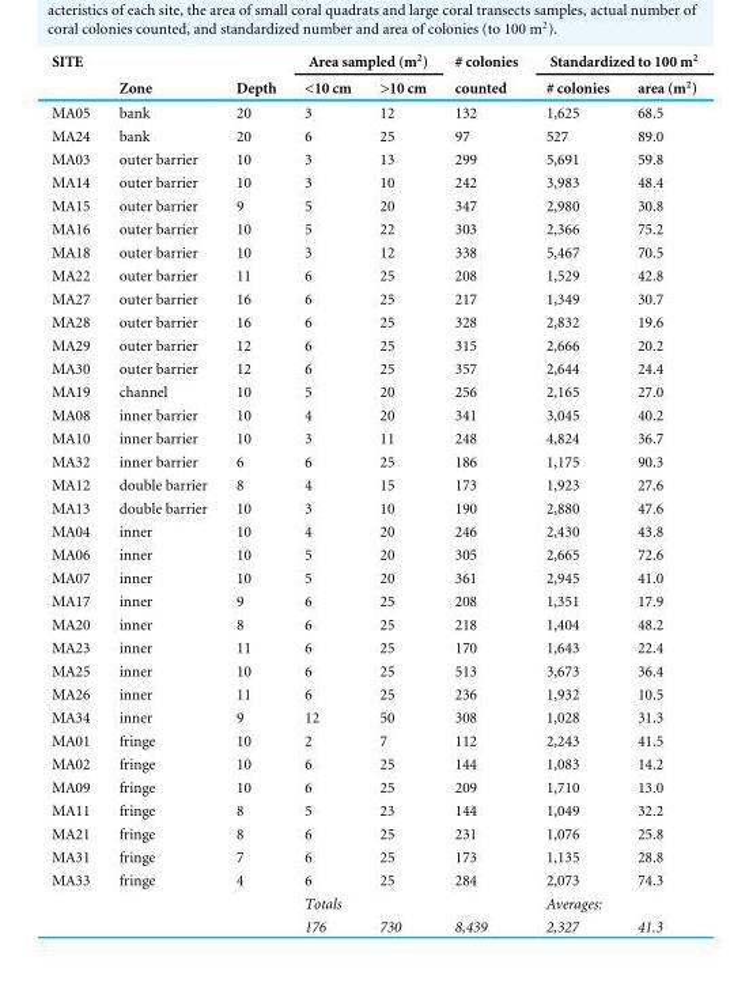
<table><thead><tr><td rowspan="2">SITE</td><td rowspan="2">Zone</td><td rowspan="2">Depth</td><td colspan="2">Area sampled (m<sup>2</sup>)</td><td rowspan="2"># colonies counted</td><td colspan="2">Standardized to 100 m<sup>2</sup></td></tr><tr><td>&lt;10 cm</td><td>&gt;10 cm</td><td># colonies</td><td>area (m<sup>2</sup>)</td></tr></thead><tbody><tr><td>MA05</td><td>bank</td><td>20</td><td>3</td><td>12</td><td>132</td><td>1,625</td><td>68.5</td></tr><tr><td>MA24</td><td>bank</td><td>20</td><td>6</td><td>25</td><td>97</td><td>527</td><td>89.0</td></tr><tr><td>MA03</td><td>outer barrier</td><td>10</td><td>3</td><td>13</td><td>299</td><td>5,691</td><td>59.8</td></tr><tr><td>MA14</td><td>outer barrier</td><td>10</td><td>3</td><td>10</td><td>242</td><td>3,983</td><td>48.4</td></tr><tr><td>MA15</td><td>outer barrier</td><td>9</td><td>5</td><td>20</td><td>347</td><td>2,980</td><td>30.8</td></tr><tr><td>MA16</td><td>outer barrier</td><td>10</td><td>5</td><td>22</td><td>303</td><td>2,366</td><td>75.2</td></tr><tr><td>MA18</td><td>outer barrier</td><td>10</td><td>3</td><td>12</td><td>338</td><td>5,467</td><td>70.5</td></tr><tr><td>MA22</td><td>outer barrier</td><td>11</td><td>6</td><td>25</td><td>208</td><td>1,529</td><td>42.8</td></tr><tr><td>MA27</td><td>outer barrier</td><td>16</td><td>6</td><td>25</td><td>217</td><td>1,349</td><td>30.7</td></tr><tr><td>MA28</td><td>outer barrier</td><td>16</td><td>6</td><td>25</td><td>328</td><td>2,832</td><td>19.6</td></tr><tr><td>MA29</td><td>outer barrier</td><td>12</td><td>6</td><td>25</td><td>315</td><td>2,666</td><td>20.2</td></tr><tr><td>MA30</td><td>outer barrier</td><td>12</td><td>6</td><td>25</td><td>357</td><td>2,644</td><td>24.4</td></tr><tr><td>MA19</td><td>channel</td><td>10</td><td>5</td><td>20</td><td>256</td><td>2,165</td><td>27.0</td></tr><tr><td>MA08</td><td>inner barrier</td><td>10</td><td>4</td><td>20</td><td>341</td><td>3,045</td><td>40.2</td></tr><tr><td>MA10</td><td>inner barrier</td><td>10</td><td>3</td><td>11</td><td>248</td><td>4,824</td><td>36.7</td></tr><tr><td>MA32</td><td>inner barrier</td><td>6</td><td>6</td><td>25</td><td>186</td><td>1,175</td><td>90.3</td></tr><tr><td>MA12</td><td>double barrier</td><td>8</td><td>4</td><td>15</td><td>173</td><td>1,923</td><td>27.6</td></tr><tr><td>MA13</td><td>double barrier</td><td>10</td><td>3</td><td>10</td><td>190</td><td>2,880</td><td>47.6</td></tr><tr><td>MA04</td><td>inner</td><td>10</td><td>4</td><td>20</td><td>246</td><td>2,430</td><td>43.8</td></tr><tr><td>MA06</td><td>inner</td><td>10</td><td>5</td><td>20</td><td>305</td><td>2,665</td><td>72.6</td></tr><tr><td>MA07</td><td>inner</td><td>10</td><td>5</td><td>20</td><td>361</td><td>2,945</td><td>41.0</td></tr><tr><td>MA17</td><td>inner</td><td>9</td><td>6</td><td>25</td><td>208</td><td>1,351</td><td>17.9</td></tr><tr><td>MA20</td><td>inner</td><td>8</td><td>6</td><td>25</td><td>218</td><td>1,404</td><td>48.2</td></tr><tr><td>MA23</td><td>inner</td><td>11</td><td>6</td><td>25</td><td>170</td><td>1,643</td><td>22.4</td></tr><tr><td>MA25</td><td>inner</td><td>10</td><td>6</td><td>25</td><td>513</td><td>3,673</td><td>36.4</td></tr><tr><td>MA26</td><td>inner</td><td>11</td><td>6</td><td>25</td><td>236</td><td>1,932</td><td>10.5</td></tr><tr><td>MA34</td><td>inner</td><td>9</td><td>12</td><td>50</td><td>308</td><td>1,028</td><td>31.3</td></tr><tr><td>MA01</td><td>fringe</td><td>10</td><td>2</td><td>7</td><td>112</td><td>2,243</td><td>41.5</td></tr><tr><td>MA02</td><td>fringe</td><td>10</td><td>6</td><td>25</td><td>144</td><td>1,083</td><td>14.2</td></tr><tr><td>MA09</td><td>fringe</td><td>10</td><td>6</td><td>25</td><td>209</td><td>1,710</td><td>13.0</td></tr><tr><td>MA11</td><td>fringe</td><td>8</td><td>5</td><td>23</td><td>144</td><td>1,049</td><td>32.2</td></tr><tr><td>MA21</td><td>fringe</td><td>8</td><td>6</td><td>25</td><td>231</td><td>1,076</td><td>25.8</td></tr><tr><td>MA31</td><td>fringe</td><td>7</td><td>6</td><td>25</td><td>173</td><td>1,135</td><td>28.8</td></tr><tr><td rowspan="3">MA33</td><td>fringe</td><td>4</td><td>6</td><td>25</td><td>284</td><td>2,073</td><td>74.3</td></tr><tr><td></td><td></td><td>Totals</td><td></td><td></td><td>Averages:</td><td></td></tr><tr><td></td><td></td><td>176</td><td>730</td><td>8,439</td><td>2,327</td><td>41.3</td></tr></tbody></table>